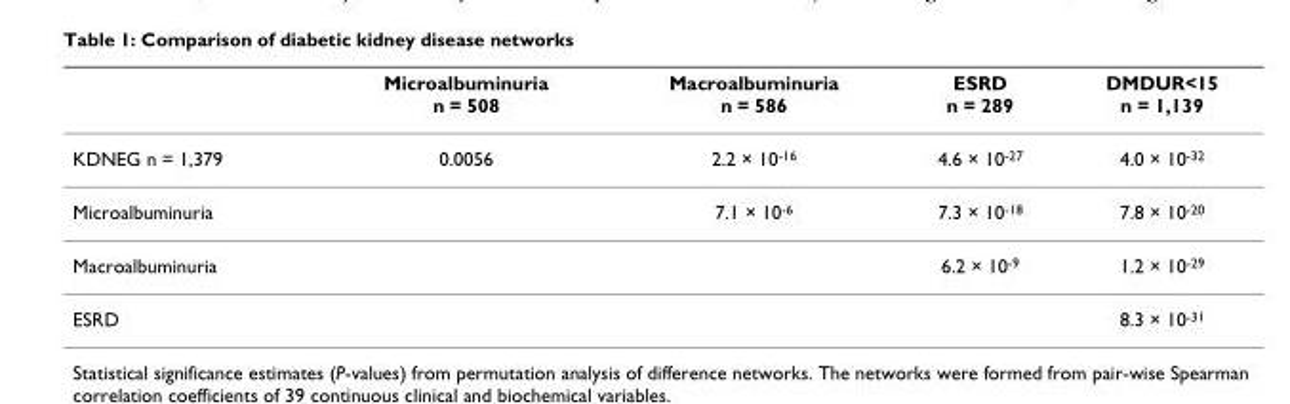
<table><thead><tr><td></td><td>Microalbuminuria n = 508</td><td>Macroalbuminuria n = 586</td><td>ESRD n = 289</td><td>DMDUR&lt;15 n = 1,139</td></tr></thead><tbody><tr><td>KDNEG n = 1,379</td><td>0.0056</td><td>2.2 × 10<sup>-16</sup></td><td>4.6 × 10<sup>-27</sup></td><td>4.0 × 10<sup>-32</sup></td></tr><tr><td>Microalbuminuria</td><td></td><td>7.1 × 10<sup>-6</sup></td><td>7.3 × 10<sup>-18</sup></td><td>7.8 × 10<sup>-20</sup></td></tr><tr><td>Macroalbuminuria</td><td></td><td></td><td>6.2 × 10<sup>-9</sup></td><td>1.2 × 10<sup>-29</sup></td></tr><tr><td>ESRD</td><td></td><td></td><td></td><td>8.3 × 10<sup>-31</sup></td></tr></tbody></table>